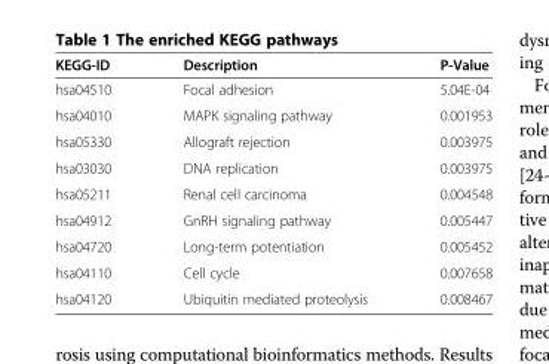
<table><thead><tr><td>KEGG-ID</td><td>Description</td><td>P-Value</td></tr></thead><tbody><tr><td>hsa04510</td><td>Focal adhesion</td><td>5.04E-04</td></tr><tr><td>hsa04010</td><td>MAPK signaling pathway</td><td>0.001953</td></tr><tr><td>hsa05330</td><td>Allograft rejection</td><td>0.003975</td></tr><tr><td>hsa03030</td><td>DNA replication</td><td>0.003975</td></tr><tr><td>hsa05211</td><td>Renal cell carcinoma</td><td>0.004548</td></tr><tr><td>hsa04912</td><td>GnRH signaling pathway</td><td>0.005447</td></tr><tr><td>hsa04720</td><td>Long-term potentiation</td><td>0.005452</td></tr><tr><td>hsa04110</td><td>Cell cycle</td><td>0.007658</td></tr><tr><td>hsa04120</td><td>Ubiquitin mediated proteolysis</td><td>0.008467</td></tr></tbody></table>